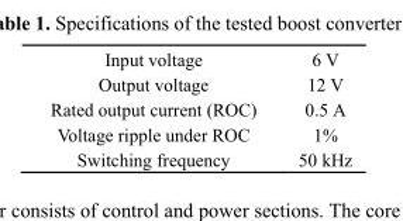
<table><tbody><tr><td>Input voltage</td><td>6 V</td></tr><tr><td>Output voltage</td><td>12 V</td></tr><tr><td>Rated output current (ROC)</td><td>0.5 A</td></tr><tr><td>Voltage ripple under ROC</td><td>1%</td></tr><tr><td>Switching frequency</td><td>50 kHz</td></tr></tbody></table>